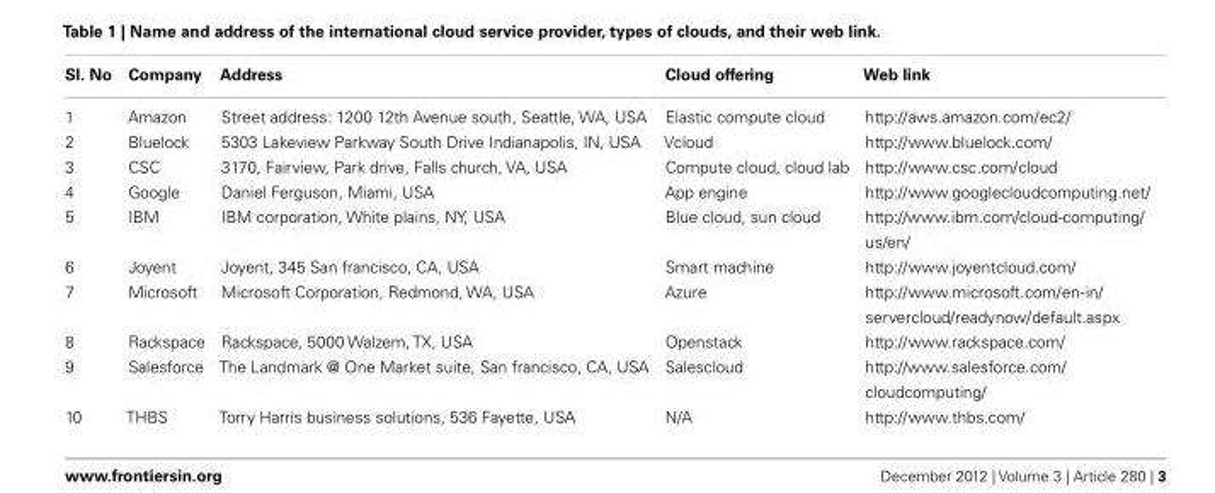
<table><thead><tr><td>Sl. No</td><td>Company</td><td>Address</td><td>Cloud offering</td><td>Web link</td></tr></thead><tbody><tr><td>1</td><td>Amazon</td><td>Street address: 1200 12th Avenue south, Seattle, WA, USA</td><td>Elastic compute cloud</td><td>http://aws.amazon.com/ec2/</td></tr><tr><td>2</td><td>Bluelock</td><td>5303 Lakeview Parkway South Drive Indianapolis, IN, USA</td><td>Vcloud</td><td>http://www.bluelock.com/</td></tr><tr><td>3</td><td>CSC</td><td>3170, Fairview, Park drive, Falls church, VA, USA</td><td>Compute cloud, cloud lab</td><td>http://www.csc.com/cloud</td></tr><tr><td>4</td><td>Google</td><td>Daniel Ferguson, Miami, USA</td><td>App engine</td><td>http://www.googlecloudcomputing.net/</td></tr><tr><td>5</td><td>IBM</td><td>IBM corporation, White plains, NY, USA</td><td>Blue cloud, sun cloud</td><td>http://www.ibm.com/cloud-computing/ us/en/</td></tr><tr><td>6</td><td>Joyent</td><td>Joyent, 345 San francisco, CA, USA</td><td>Smart machine</td><td>http://www.joyentcloud.com/</td></tr><tr><td>7</td><td>Microsoft</td><td>Microsoft Corporation, Redmond, WA, USA</td><td>Azure</td><td>http://www.microsoft.com/en-in/ servercloud/readynow/default.aspx</td></tr><tr><td>8</td><td>Rackspace</td><td>Rackspace, 5000 Walzem, TX, USA</td><td>Openstack</td><td>http://www.rackspace.com/</td></tr><tr><td>9</td><td>Salesforce</td><td>The Landmark @ One Market suite, San francisco, CA, USA</td><td>Salescloud</td><td>http://www.salesforce.com/ cloudcomputing/</td></tr><tr><td>10</td><td>THBS</td><td>Torry Harris business solutions, 536 Fayette, USA</td><td>N/A</td><td>http://www.thbs.com/</td></tr></tbody></table>